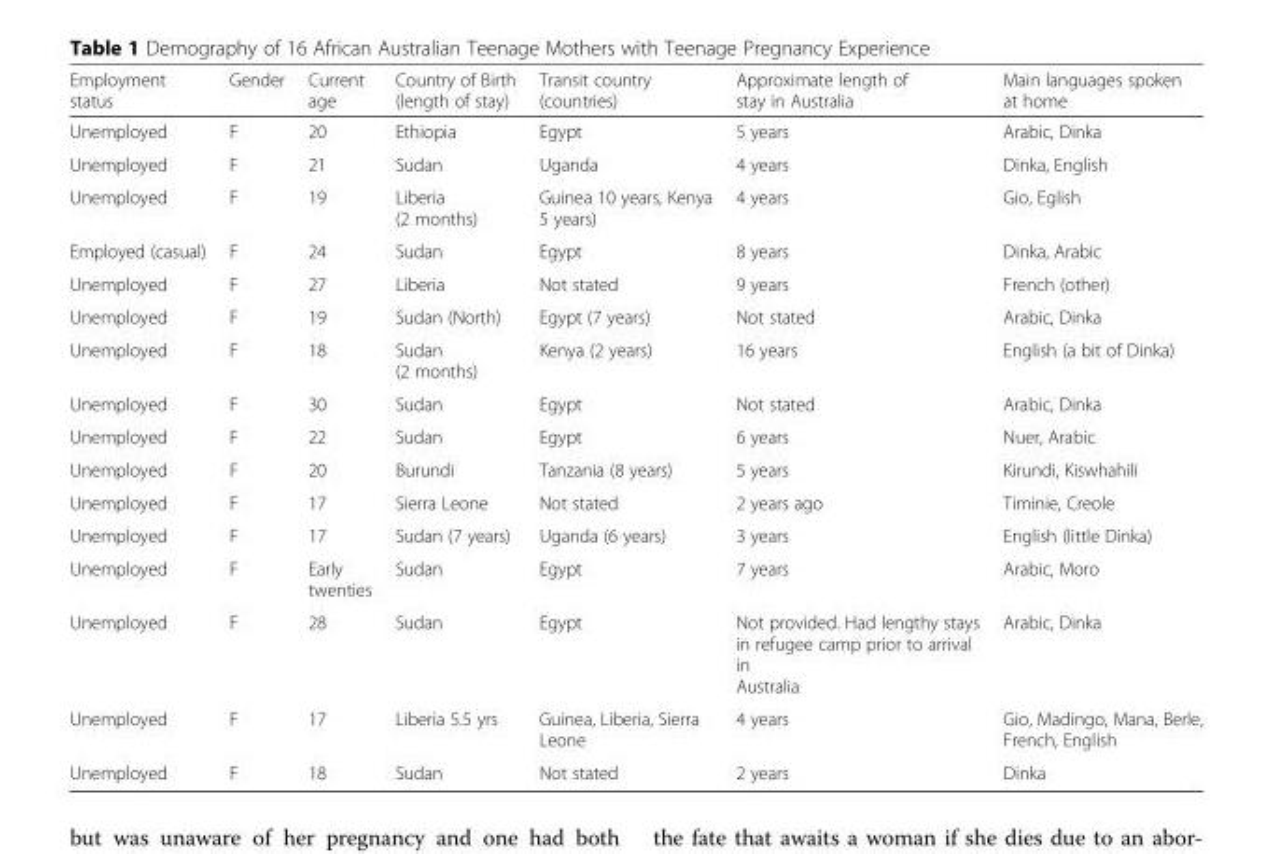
<table><thead><tr><td>Employment status</td><td>Gender</td><td>Current age</td><td>Country of Birth (length of stay)</td><td>Transit country (countries)</td><td>Approximate length of stay in Australia</td><td>Main languages spoken at home</td></tr></thead><tbody><tr><td>Unemployed</td><td>F</td><td>20</td><td>Ethiopia</td><td>Egypt</td><td>5 years</td><td>Arabic, Dinka</td></tr><tr><td>Unemployed</td><td>F</td><td>21</td><td>Sudan</td><td>Uganda</td><td>4 years</td><td>Dinka, English</td></tr><tr><td>Unemployed</td><td>F</td><td>19</td><td>Liberia (2 months)</td><td>Guinea 10 years, Kenya 5 years)</td><td>4 years</td><td>Gio, Eglish</td></tr><tr><td>Employed (casual)</td><td>F</td><td>24</td><td>Sudan</td><td>Egypt</td><td>8 years</td><td>Dinka, Arabic</td></tr><tr><td>Unemployed</td><td>F</td><td>27</td><td>Liberia</td><td>Not stated</td><td>9 years</td><td>French (other)</td></tr><tr><td>Unemployed</td><td>F</td><td>19</td><td>Sudan (North)</td><td>Egypt (7 years)</td><td>Not stated</td><td>Arabic, Dinka</td></tr><tr><td>Unemployed</td><td>F</td><td>18</td><td>Sudan (2 months)</td><td>Kenya (2 years)</td><td>16 years</td><td>English (a bit of Dinka)</td></tr><tr><td>Unemployed</td><td>F</td><td>30</td><td>Sudan</td><td>Egypt</td><td>Not stated</td><td>Arabic, Dinka</td></tr><tr><td>Unemployed</td><td>F</td><td>22</td><td>Sudan</td><td>Egypt</td><td>6 years</td><td>Nuer, Arabic</td></tr><tr><td>Unemployed</td><td>F</td><td>20</td><td>Burundi</td><td>Tanzania (8 years)</td><td>5 years</td><td>Kirundi, Kiswhahili</td></tr><tr><td>Unemployed</td><td>F</td><td>17</td><td>Sierra Leone</td><td>Not stated</td><td>2 years ago</td><td>Timinie, Creole</td></tr><tr><td>Unemployed</td><td>F</td><td>17</td><td>Sudan (7 years)</td><td>Uganda (6 years)</td><td>3 years</td><td>English (little Dinka)</td></tr><tr><td>Unemployed</td><td>F</td><td>Early twenties</td><td>Sudan</td><td>Egypt</td><td>7 years</td><td>Arabic, Moro</td></tr><tr><td>Unemployed</td><td>F</td><td>28</td><td>Sudan</td><td>Egypt</td><td>Not provided. Had lengthy stays in refugee camp prior to arrival in Australia</td><td>Arabic, Dinka</td></tr><tr><td>Unemployed</td><td>F</td><td>17</td><td>Liberia 5.5 yrs</td><td>Guinea, Liberia, Sierra Leone</td><td>4 years</td><td>Gio, Madingo, Mana, Berle, French, English</td></tr><tr><td>Unemployed</td><td>F</td><td>18</td><td>Sudan</td><td>Not stated</td><td>2 years</td><td>Dinka</td></tr></tbody></table>